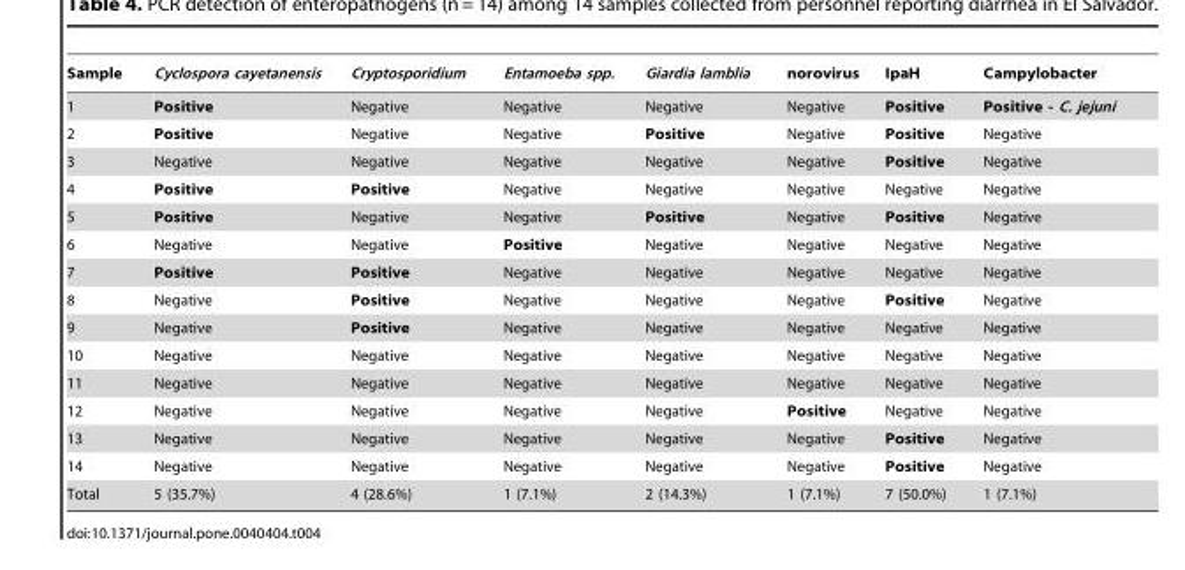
<table><thead><tr><td>Sample</td><td>Cyclospora cayetanensis</td><td>Cryptosporidium</td><td>Entamoeba spp.</td><td>Giardia lamblia</td><td>norovirus</td><td>IpaH</td><td>Campylobacter</td></tr></thead><tbody><tr><td>1</td><td>Positive</td><td>Negative</td><td>Negative</td><td>Negative</td><td>Negative</td><td>Positive</td><td>Positive - C. jejuni</td></tr><tr><td>2</td><td>Positive</td><td>Negative</td><td>Negative</td><td>Positive</td><td>Negative</td><td>Positive</td><td>Negative</td></tr><tr><td>3</td><td>Negative</td><td>Negative</td><td>Negative</td><td>Negative</td><td>Negative</td><td>Positive</td><td>Negative</td></tr><tr><td>4</td><td>Positive</td><td>Positive</td><td>Negative</td><td>Negative</td><td>Negative</td><td>Negative</td><td>Negative</td></tr><tr><td>5</td><td>Positive</td><td>Negative</td><td>Negative</td><td>Positive</td><td>Negative</td><td>Positive</td><td>Negative</td></tr><tr><td>6</td><td>Negative</td><td>Negative</td><td>Positive</td><td>Negative</td><td>Negative</td><td>Negative</td><td>Negative</td></tr><tr><td>7</td><td>Positive</td><td>Positive</td><td>Negative</td><td>Negative</td><td>Negative</td><td>Negative</td><td>Negative</td></tr><tr><td>8</td><td>Negative</td><td>Positive</td><td>Negative</td><td>Negative</td><td>Negative</td><td>Positive</td><td>Negative</td></tr><tr><td>9</td><td>Negative</td><td>Positive</td><td>Negative</td><td>Negative</td><td>Negative</td><td>Negative</td><td>Negative</td></tr><tr><td>10</td><td>Negative</td><td>Negative</td><td>Negative</td><td>Negative</td><td>Negative</td><td>Negative</td><td>Negative</td></tr><tr><td>11</td><td>Negative</td><td>Negative</td><td>Negative</td><td>Negative</td><td>Negative</td><td>Negative</td><td>Negative</td></tr><tr><td>12</td><td>Negative</td><td>Negative</td><td>Negative</td><td>Negative</td><td>Positive</td><td>Negative</td><td>Negative</td></tr><tr><td>13</td><td>Negative</td><td>Negative</td><td>Negative</td><td>Negative</td><td>Negative</td><td>Positive</td><td>Negative</td></tr><tr><td>14</td><td>Negative</td><td>Negative</td><td>Negative</td><td>Negative</td><td>Negative</td><td>Positive</td><td>Negative</td></tr><tr><td>Total</td><td>5 (35.7%)</td><td>4 (28.6%)</td><td>1 (7.1%)</td><td>2 (14.3%)</td><td>1 (7.1%)</td><td>7 (50.0%)</td><td>1 (7.1%)</td></tr></tbody></table>